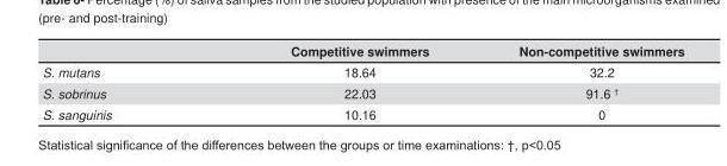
<table><thead><tr><td></td><td>Competitive swimmers</td><td>Non-competitive swimmers</td></tr></thead><tbody><tr><td>S. mutans</td><td>18.64</td><td>32.2</td></tr><tr><td>S. sobrinus</td><td>22.03</td><td>91.6 <sup>†</sup></td></tr><tr><td>S. sanguinis</td><td>10.16</td><td>0</td></tr></tbody></table>